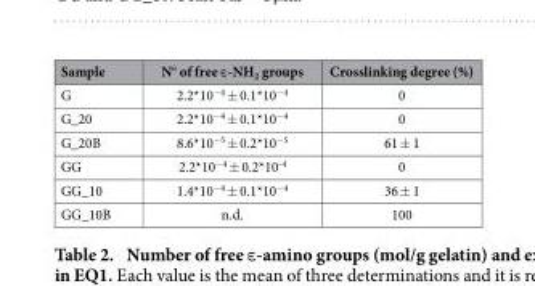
<table><thead><tr><td>Sample</td><td>N° of free ε-NH<sub>2</sub> groups</td><td>Crosslinking degree (%)</td></tr></thead><tbody><tr><td>G</td><td>2.2*10<sup>−4</sup> ± 0.1*10<sup>−4</sup></td><td>0</td></tr><tr><td>G_20</td><td>2.2*10<sup>−4</sup> ± 0.1*10<sup>−4</sup></td><td>0</td></tr><tr><td>G_20B</td><td>8.6*10<sup>−5</sup> ± 0.2*10<sup>−5</sup></td><td>61 ± 1</td></tr><tr><td>GG</td><td>2.2*10<sup>−4</sup> ± 0.2*10<sup>-4</sup></td><td>0</td></tr><tr><td>GG_10</td><td>1.4*10<sup>−4</sup> ± 0.1*10<sup>−4</sup></td><td>36 ± 1</td></tr><tr><td>GG_10B</td><td>n.d.</td><td>100</td></tr></tbody></table>